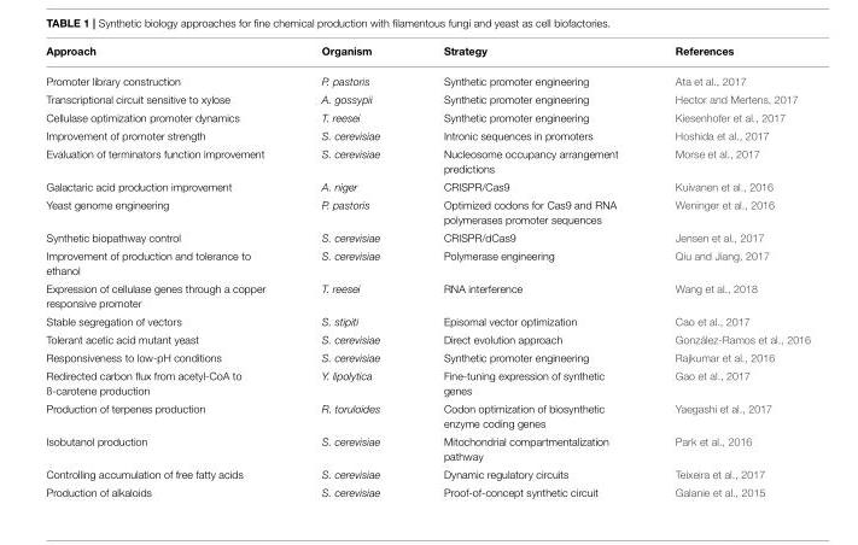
<table><thead><tr><td>Approach</td><td>Organism</td><td>Strategy</td><td>References</td></tr></thead><tbody><tr><td>Promoter library construction</td><td>P. pastoris</td><td>Synthetic promoter engineering</td><td>Ata et al., 2017</td></tr><tr><td>Transcriptional circuit sensitive to xylose</td><td>A. gossypii</td><td>Synthetic promoter engineering</td><td>Hector and Mertens, 2017</td></tr><tr><td>Cellulase optimization promoter dynamics</td><td>T. reesei</td><td>Synthetic promoter engineering</td><td>Kiesenhofer et al., 2017</td></tr><tr><td>Improvement of promoter strength</td><td>S. cerevisiae</td><td>Intronic sequences in promoters</td><td>Hoshida et al., 2017</td></tr><tr><td>Evaluation of terminators function improvement</td><td>S. cerevisiae</td><td>Nucleosome occupancy arrangement predictions</td><td>Morse et al., 2017</td></tr><tr><td>Galactaric acid production improvement</td><td>A. niger</td><td>CRISPR/Cas9</td><td>Kuivanen et al., 2016</td></tr><tr><td>Yeast genome engineering</td><td>P. pastoris</td><td>Optimized codons for Cas9 and RNA polymerases promoter sequences</td><td>Weninger et al., 2016</td></tr><tr><td>Synthetic biopathway control</td><td>S. cerevisiae</td><td>CRISPR/dCas9</td><td>Jensen et al., 2017</td></tr><tr><td>Improvement of production and tolerance to ethanol</td><td>S. cerevisiae</td><td>Polymerase engineering</td><td>Qiu and Jiang, 2017</td></tr><tr><td>Expression of cellulase genes through a copper responsive promoter</td><td>T. reesei</td><td>RNA interference</td><td>Wang et al., 2018</td></tr><tr><td>Stable segregation of vectors</td><td>S. stipiti</td><td>Episomal vector optimization</td><td>Cao et al., 2017</td></tr><tr><td>Tolerant acetic acid mutant yeast</td><td>S. cerevisiae</td><td>Direct evolution approach</td><td>González-Ramos et al., 2016</td></tr><tr><td>Responsiveness to low-pH conditions</td><td>S. cerevisiae</td><td>Synthetic promoter engineering</td><td>Rajkumar et al., 2016</td></tr><tr><td>Redirected carbon flux from acetyl-CoA to ß-carotene production</td><td>Y. lipolytica</td><td>Fine-tuning expression of synthetic genes</td><td>Gao et al., 2017</td></tr><tr><td>Production of terpenes production</td><td>R. toruloides</td><td>Codon optimization of biosynthetic enzyme coding genes</td><td>Yaegashi et al., 2017</td></tr><tr><td>Isobutanol production</td><td>S. cerevisiae</td><td>Mitochondrial compartmentalization pathway</td><td>Park et al., 2016</td></tr><tr><td>Controlling accumulation of free fatty acids</td><td>S. cerevisiae</td><td>Dynamic regulatory circuits</td><td>Teixeira et al., 2017</td></tr><tr><td>Production of alkaloids</td><td>S. cerevisiae</td><td>Proof-of-concept synthetic circuit</td><td>Galanie et al., 2015</td></tr></tbody></table>